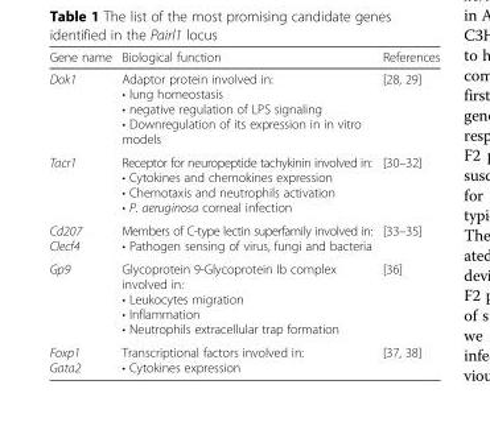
<table><thead><tr><td>Gene name</td><td>Biological function</td><td>References</td></tr></thead><tbody><tr><td>Dok1</td><td>Adaptor protein involved in: • lung homeostasis • negative regulation of LPS signaling • Downregulation of its expression in in vitro models</td><td>[28, 29]</td></tr><tr><td>Tacr1</td><td>Receptor for neuropeptide tachykinin involved in: • Cytokines and chemokines expression • Chemotaxis and neutrophils activation • P. aeruginosa corneal infection</td><td>[30–32]</td></tr><tr><td>Cd207 Clecf4</td><td>Members of C-type lectin superfamily involved in: • Pathogen sensing of virus, fungi and bacteria</td><td>[33–35]</td></tr><tr><td>Gp9</td><td>Glycoprotein 9-Glycoprotein Ib complex involved in: • Leukocytes migration • Inflammation • Neutrophils extracellular trap formation</td><td>[36]</td></tr><tr><td>Foxp1 Gata2</td><td>Transcriptional factors involved in: • Cytokines expression</td><td>[37, 38]</td></tr></tbody></table>